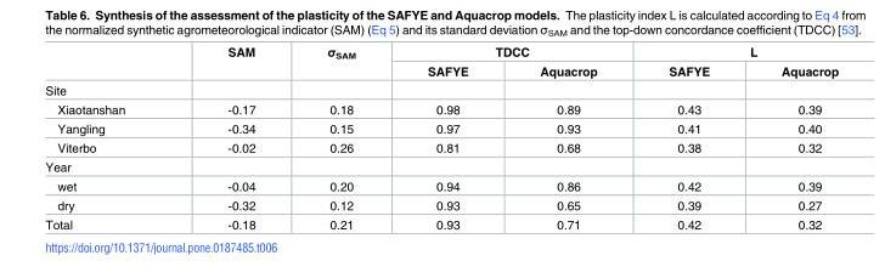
<table><thead><tr><td rowspan="2"></td><td rowspan="2">SAM</td><td rowspan="2">σ<sub>SAM</sub></td><td colspan="2">TDCC</td><td colspan="2">L</td></tr><tr><td>SAFYE</td><td>Aquacrop</td><td>SAFYE</td><td>Aquacrop</td></tr></thead><tbody><tr><td colspan="7">Site</td></tr><tr><td>Xiaotanshan</td><td>-0.17</td><td>0.18</td><td>0.98</td><td>0.89</td><td>0.43</td><td>0.39</td></tr><tr><td>Yangling</td><td>-0.34</td><td>0.15</td><td>0.97</td><td>0.93</td><td>0.41</td><td>0.40</td></tr><tr><td>Viterbo</td><td>-0.02</td><td>0.26</td><td>0.81</td><td>0.68</td><td>0.38</td><td>0.32</td></tr><tr><td colspan="7">Year</td></tr><tr><td>wet</td><td>-0.04</td><td>0.20</td><td>0.94</td><td>0.86</td><td>0.42</td><td>0.39</td></tr><tr><td>dry</td><td>-0.32</td><td>0.12</td><td>0.93</td><td>0.65</td><td>0.39</td><td>0.27</td></tr><tr><td>Total</td><td>-0.18</td><td>0.21</td><td>0.93</td><td>0.71</td><td>0.42</td><td>0.32</td></tr></tbody></table>